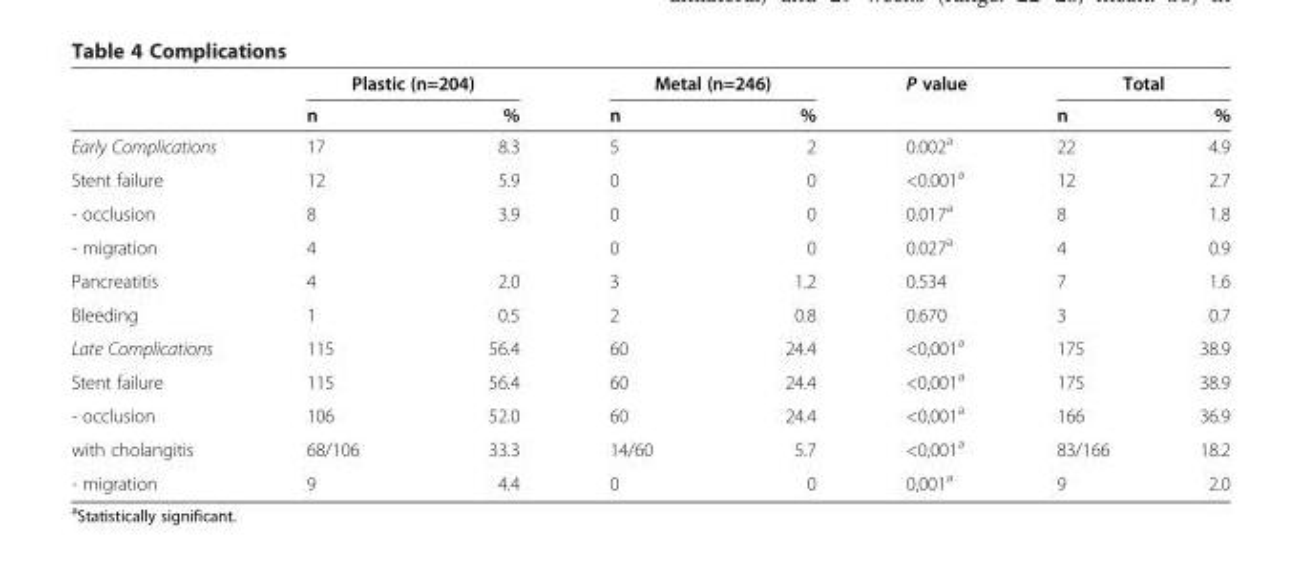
<table><thead><tr><td rowspan="2"></td><td colspan="2">Plastic (n=204)</td><td colspan="2">Metal (n=246)</td><td rowspan="2">P value</td><td colspan="2">Total</td></tr><tr><td>n</td><td>%</td><td>n</td><td>%</td><td>n</td><td>%</td></tr></thead><tbody><tr><td>Early Complications</td><td>17</td><td>8.3</td><td>5</td><td>2</td><td>0.002<sup>a</sup></td><td>22</td><td>4.9</td></tr><tr><td>Stent failure</td><td>12</td><td>5.9</td><td>0</td><td>0</td><td>&lt;0.001<sup>a</sup></td><td>12</td><td>2.7</td></tr><tr><td>- occlusion</td><td>8</td><td>3.9</td><td>0</td><td>0</td><td>0.017<sup>a</sup></td><td>8</td><td>1.8</td></tr><tr><td>- migration</td><td>4</td><td></td><td>0</td><td>0</td><td>0.027<sup>a</sup></td><td>4</td><td>0.9</td></tr><tr><td>Pancreatitis</td><td>4</td><td>2.0</td><td>3</td><td>1.2</td><td>0.534</td><td>7</td><td>1.6</td></tr><tr><td>Bleeding</td><td>1</td><td>0.5</td><td>2</td><td>0.8</td><td>0.670</td><td>3</td><td>0.7</td></tr><tr><td>Late Complications</td><td>115</td><td>56.4</td><td>60</td><td>24.4</td><td>&lt;0,001<sup>a</sup></td><td>175</td><td>38.9</td></tr><tr><td>Stent failure</td><td>115</td><td>56.4</td><td>60</td><td>24.4</td><td>&lt;0,001<sup>a</sup></td><td>175</td><td>38.9</td></tr><tr><td>- occlusion</td><td>106</td><td>52.0</td><td>60</td><td>24.4</td><td>&lt;0,001<sup>a</sup></td><td>166</td><td>36.9</td></tr><tr><td>with cholangitis</td><td>68/106</td><td>33.3</td><td>14/60</td><td>5.7</td><td>&lt;0,001<sup>a</sup></td><td>83/166</td><td>18.2</td></tr><tr><td>- migration</td><td>9</td><td>4.4</td><td>0</td><td>0</td><td>0,001<sup>a</sup></td><td>9</td><td>2.0</td></tr></tbody></table>